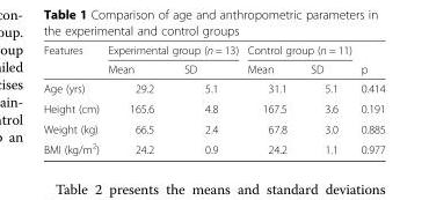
<table><thead><tr><td rowspan="2">Features</td><td colspan="2">Experimental group (n = 13)</td><td colspan="2">Control group (n = 11)</td><td rowspan="2">p</td></tr><tr><td>Mean</td><td>SD</td><td>Mean</td><td>SD</td></tr></thead><tbody><tr><td>Age (yrs)</td><td>29.2</td><td>5.1</td><td>31.1</td><td>5.1</td><td>0.414</td></tr><tr><td>Height (cm)</td><td>165.6</td><td>4.8</td><td>167.5</td><td>3.6</td><td>0.191</td></tr><tr><td>Weight (kg)</td><td>66.5</td><td>2.4</td><td>67.8</td><td>3.0</td><td>0.885</td></tr><tr><td>BMI (kg/m<sup>2</sup>)</td><td>24.2</td><td>0.9</td><td>24.2</td><td>1.1</td><td>0.977</td></tr></tbody></table>